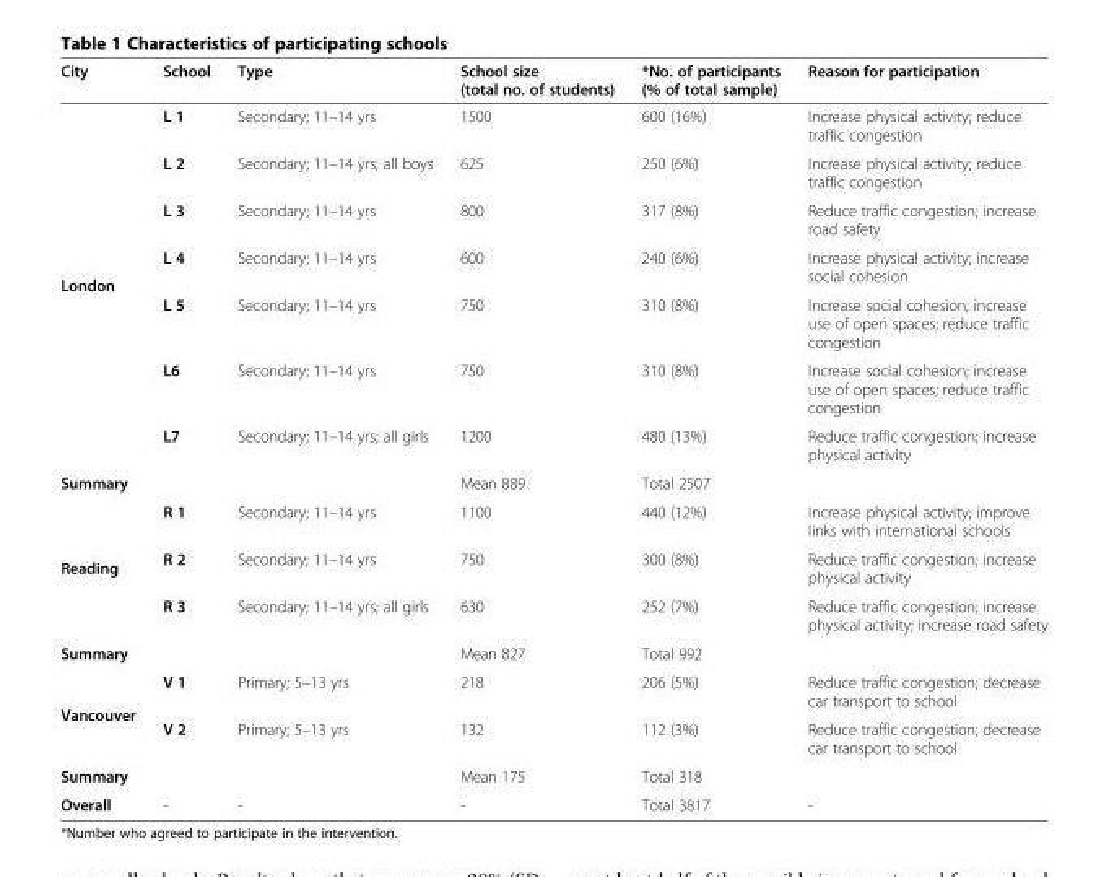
<table><thead><tr><td>City</td><td>School</td><td>Type</td><td>School size (total no. of students)</td><td>*No. of participants (% of total sample)</td><td>Reason for participation</td></tr></thead><tbody><tr><td rowspan="7">London</td><td>L 1</td><td>Secondary; 11–14 yrs</td><td>1500</td><td>600 (16%)</td><td>Increase physical activity; reduce traffic congestion</td></tr><tr><td>L 2</td><td>Secondary; 11–14 yrs; all boys</td><td>625</td><td>250 (6%)</td><td>Increase physical activity; reduce traffic congestion</td></tr><tr><td>L 3</td><td>Secondary; 11–14 yrs</td><td>800</td><td>317 (8%)</td><td>Reduce traffic congestion; increase road safety</td></tr><tr><td>L 4</td><td>Secondary; 11–14 yrs</td><td>600</td><td>240 (6%)</td><td>Increase physical activity; increase social cohesion</td></tr><tr><td>L 5</td><td>Secondary; 11–14 yrs</td><td>750</td><td>310 (8%)</td><td>Increase social cohesion; increase use of open spaces; reduce traffic congestion</td></tr><tr><td>L6</td><td>Secondary; 11–14 yrs</td><td>750</td><td>310 (8%)</td><td>Increase social cohesion; increase use of open spaces; reduce traffic congestion</td></tr><tr><td>L7</td><td>Secondary; 11–14 yrs; all girls</td><td>1200</td><td>480 (13%)</td><td>Reduce traffic congestion; increase physical activity</td></tr><tr><td>Summary</td><td></td><td></td><td>Mean 889</td><td>Total 2507</td><td></td></tr><tr><td rowspan="3">Reading</td><td>R 1</td><td>Secondary; 11–14 yrs</td><td>1100</td><td>440 (12%)</td><td>Increase physical activity; improve links with international schools</td></tr><tr><td>R 2</td><td>Secondary; 11–14 yrs</td><td>750</td><td>300 (8%)</td><td>Reduce traffic congestion; increase physical activity</td></tr><tr><td>R 3</td><td>Secondary; 11–14 yrs; all girls</td><td>630</td><td>252 (7%)</td><td>Reduce traffic congestion; increase physical activity; increase road safety</td></tr><tr><td>Summary</td><td></td><td></td><td>Mean 827</td><td>Total 992</td><td></td></tr><tr><td rowspan="2">Vancouver</td><td>V 1</td><td>Primary; 5–13 yrs</td><td>218</td><td>206 (5%)</td><td>Reduce traffic congestion; decrease car transport to school</td></tr><tr><td>V 2</td><td>Primary; 5–13 yrs</td><td>132</td><td>112 (3%)</td><td>Reduce traffic congestion; decrease car transport to school</td></tr><tr><td>Summary</td><td></td><td></td><td>Mean 175</td><td>Total 318</td><td></td></tr><tr><td>Overall</td><td>-</td><td>-</td><td>-</td><td>Total 3817</td><td>-</td></tr></tbody></table>